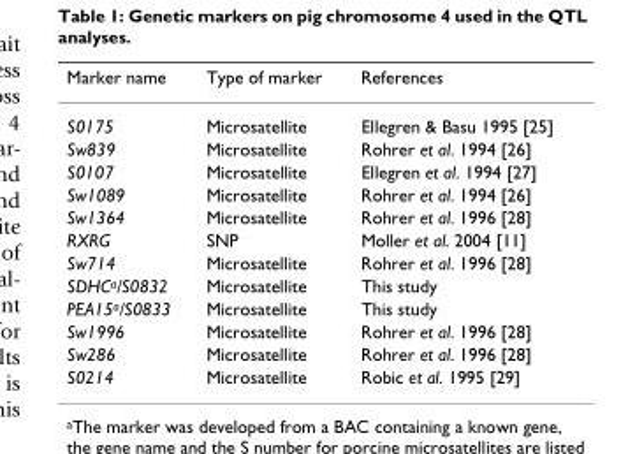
<table><thead><tr><td>Marker name</td><td>Type of marker</td><td>References</td></tr></thead><tbody><tr><td>S0175</td><td>Microsatellite</td><td>Ellegren &amp; Basu 1995 [25]</td></tr><tr><td>Sw839</td><td>Microsatellite</td><td>Rohrer et al. 1994 [26]</td></tr><tr><td>S0107</td><td>Microsatellite</td><td>Ellegren et al. 1994 [27]</td></tr><tr><td>Sw1089</td><td>Microsatellite</td><td>Rohrer et al. 1994 [26]</td></tr><tr><td>Sw1364</td><td>Microsatellite</td><td>Rohrer et al. 1996 [28]</td></tr><tr><td>RXRG</td><td>SNP</td><td>Moller et al. 2004 [11]</td></tr><tr><td>Sw714</td><td>Microsatellite</td><td>Rohrer et al. 1996 [28]</td></tr><tr><td>SDHC<sup>a</sup>/S0832</td><td>Microsatellite</td><td>This study</td></tr><tr><td>PEA15<sup>a</sup>/S0833</td><td>Microsatellite</td><td>This study</td></tr><tr><td>Sw1996</td><td>Microsatellite</td><td>Rohrer et al. 1996 [28]</td></tr><tr><td>Sw286</td><td>Microsatellite</td><td>Rohrer et al. 1996 [28]</td></tr><tr><td>S0214</td><td>Microsatellite</td><td>Robic et al. 1995 [29]</td></tr></tbody></table>